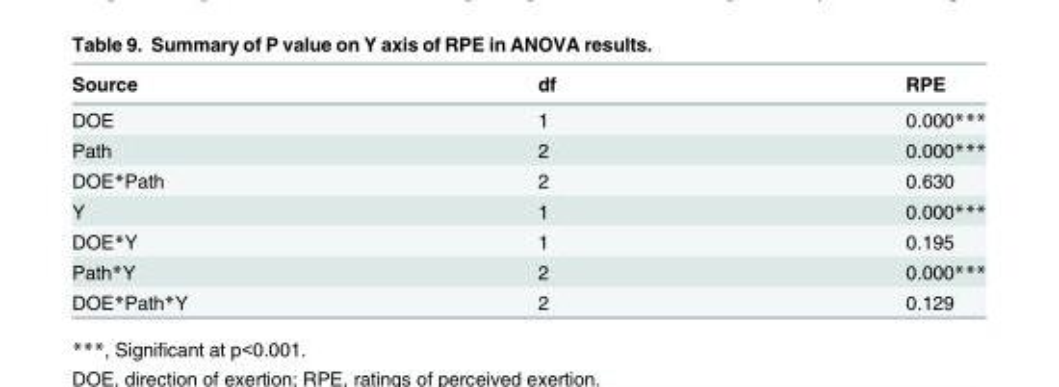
<table><thead><tr><td>Source</td><td>df</td><td>RPE</td></tr></thead><tbody><tr><td>DOE</td><td>1</td><td>0.000***</td></tr><tr><td>Path</td><td>2</td><td>0.000***</td></tr><tr><td>DOE*Path</td><td>2</td><td>0.630</td></tr><tr><td>Y</td><td>1</td><td>0.000***</td></tr><tr><td>DOE*Y</td><td>1</td><td>0.195</td></tr><tr><td>Path*Y</td><td>2</td><td>0.000***</td></tr><tr><td>DOE*Path*Y</td><td>2</td><td>0.129</td></tr></tbody></table>